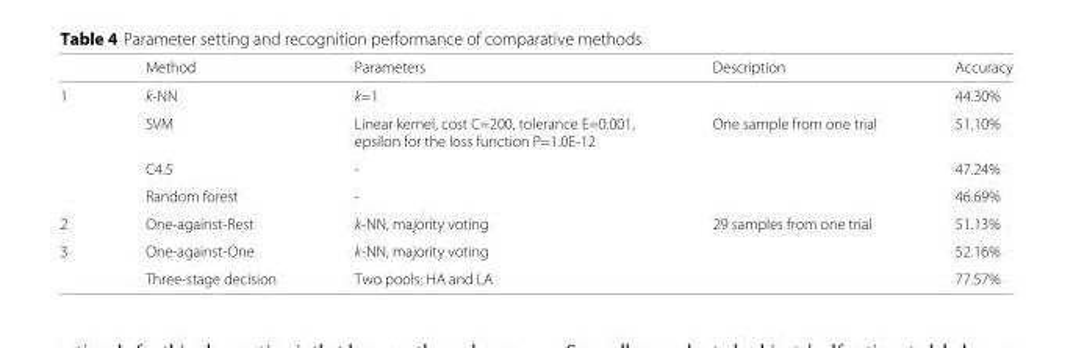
<table><thead><tr><td></td><td>Method</td><td>Parameters</td><td>Description</td><td>Accuracy</td></tr></thead><tbody><tr><td rowspan="4">1</td><td>k-NN</td><td>k=1</td><td></td><td>44.30%</td></tr><tr><td>SVM</td><td>Linear kernel, cost C=200, tolerance E=0.001, epsilon for the loss function P=1.0E-12</td><td>One sample from one trial</td><td>51.10%</td></tr><tr><td>C4.5</td><td>-</td><td></td><td>47.24%</td></tr><tr><td>Random forest</td><td>-</td><td></td><td>46.69%</td></tr><tr><td>2</td><td>One-against-Rest</td><td>k-NN, majority voting</td><td>29 samples from one trial</td><td>51.13%</td></tr><tr><td rowspan="2">3</td><td>One-against-One</td><td>k-NN, majority voting</td><td></td><td>52.16%</td></tr><tr><td>Three-stage decision</td><td>Two pools: HA and LA</td><td></td><td>77.57%</td></tr></tbody></table>